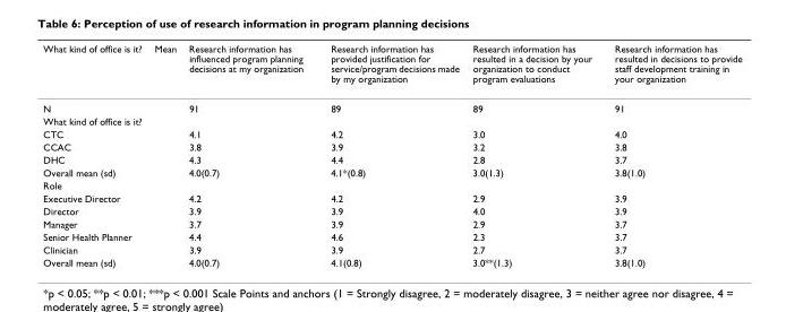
<table><thead><tr><td>What kind of office is it?</td><td>Mean</td><td>Research information has influenced program planning decisions at my organization</td><td>Research information has provided justification for service/program decisions made by my organization</td><td>Research information has resulted in a decision by your organization to conduct program evaluations</td><td>Research information has resulted in decisions to provide staff development training in your organization</td></tr></thead><tbody><tr><td>N</td><td></td><td>91</td><td>89</td><td>89</td><td>91</td></tr><tr><td colspan="6">What kind of office is it?</td></tr><tr><td>CTC</td><td></td><td>4.1</td><td>4.2</td><td>3.0</td><td>4.0</td></tr><tr><td>CCAC</td><td></td><td>3.8</td><td>3.9</td><td>3.2</td><td>3.8</td></tr><tr><td>DHC</td><td></td><td>4.3</td><td>4.4</td><td>2.8</td><td>3.7</td></tr><tr><td>Overall mean (sd)</td><td></td><td>4.0(0.7)</td><td>4.1*(0.8)</td><td>3.0(1.3)</td><td>3.8(1.0)</td></tr><tr><td colspan="6">Role</td></tr><tr><td>Executive Director</td><td></td><td>4.2</td><td>4.2</td><td>2.9</td><td>3.9</td></tr><tr><td>Director</td><td></td><td>3.9</td><td>3.9</td><td>4.0</td><td>3.9</td></tr><tr><td>Manager</td><td></td><td>3.7</td><td>3.9</td><td>2.9</td><td>3.7</td></tr><tr><td>Senior Health Planner</td><td></td><td>4.4</td><td>4.6</td><td>2.3</td><td>3.7</td></tr><tr><td>Clinician</td><td></td><td>3.9</td><td>3.9</td><td>2.7</td><td>3.7</td></tr><tr><td>Overall mean (sd)</td><td></td><td>4.0(0.7)</td><td>4.1(0.8)</td><td>3.0**(1.3)</td><td>3.8(1.0)</td></tr></tbody></table>